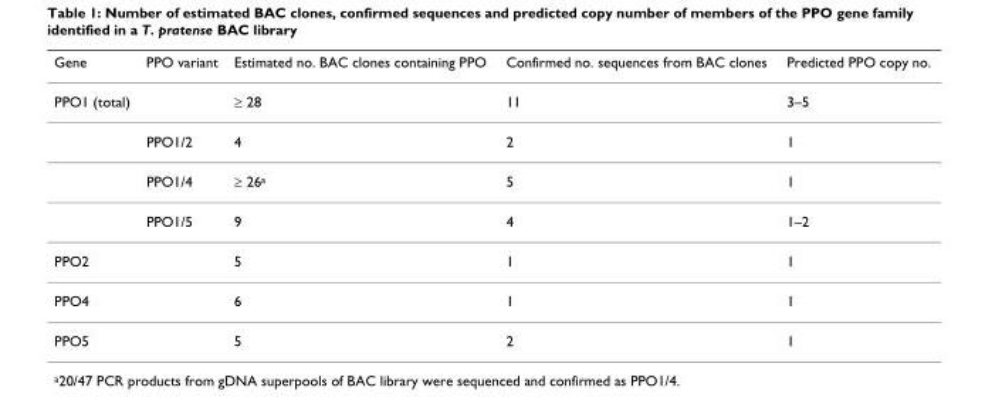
<table><thead><tr><td>Gene</td><td>PPO variant</td><td>Estimated no. BAC clones containing PPO</td><td>Confirmed no. sequences from BAC clones</td><td>Predicted PPO copy no.</td></tr></thead><tbody><tr><td rowspan="4">PPO1 (total)</td><td></td><td>≥ 28</td><td>11</td><td>3–5</td></tr><tr><td>PPO1/2</td><td>4</td><td>2</td><td>1</td></tr><tr><td>PPO1/4</td><td>≥ 26<sup>a</sup></td><td>5</td><td>1</td></tr><tr><td>PPO1/5</td><td>9</td><td>4</td><td>1–2</td></tr><tr><td>PPO2</td><td></td><td>5</td><td>1</td><td>1</td></tr><tr><td>PPO4</td><td></td><td>6</td><td>1</td><td>1</td></tr><tr><td>PPO5</td><td></td><td>5</td><td>2</td><td>1</td></tr></tbody></table>